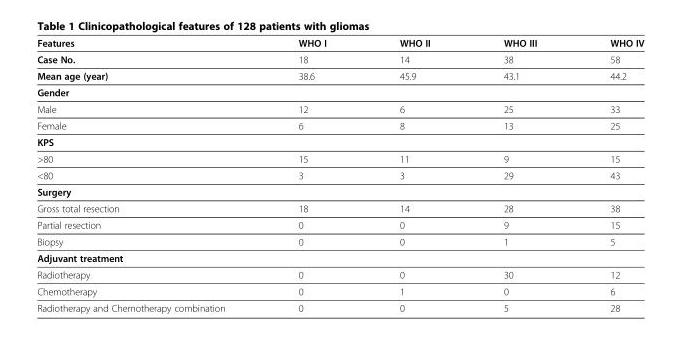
<table><thead><tr><td>Features</td><td>WHO I</td><td>WHO II</td><td>WHO III</td><td>WHO IV</td></tr></thead><tbody><tr><td>Case No.</td><td>18</td><td>14</td><td>38</td><td>58</td></tr><tr><td>Mean age (year)</td><td>38.6</td><td>45.9</td><td>43.1</td><td>44.2</td></tr><tr><td colspan="5">Gender</td></tr><tr><td>Male</td><td>12</td><td>6</td><td>25</td><td>33</td></tr><tr><td>Female</td><td>6</td><td>8</td><td>13</td><td>25</td></tr><tr><td colspan="5">KPS</td></tr><tr><td>&gt;80</td><td>15</td><td>11</td><td>9</td><td>15</td></tr><tr><td>&lt;80</td><td>3</td><td>3</td><td>29</td><td>43</td></tr><tr><td colspan="5">Surgery</td></tr><tr><td>Gross total resection</td><td>18</td><td>14</td><td>28</td><td>38</td></tr><tr><td>Partial resection</td><td>0</td><td>0</td><td>9</td><td>15</td></tr><tr><td>Biopsy</td><td>0</td><td>0</td><td>1</td><td>5</td></tr><tr><td colspan="5">Adjuvant treatment</td></tr><tr><td>Radiotherapy</td><td>0</td><td>0</td><td>30</td><td>12</td></tr><tr><td>Chemotherapy</td><td>0</td><td>1</td><td>0</td><td>6</td></tr><tr><td>Radiotherapy and Chemotherapy combination</td><td>0</td><td>0</td><td>5</td><td>28</td></tr></tbody></table>